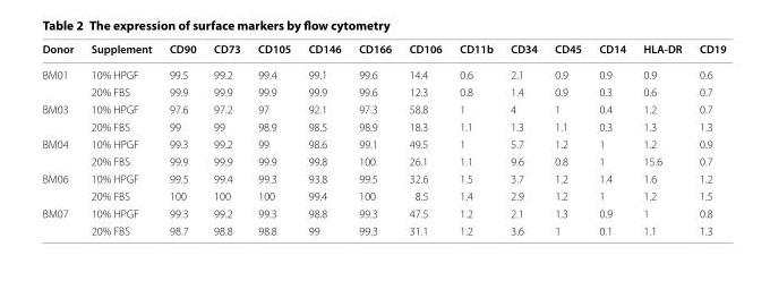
<table><thead><tr><td>Donor</td><td>Supplement</td><td>CD90</td><td>CD73</td><td>CD105</td><td>CD146</td><td>CD166</td><td>CD106</td><td>CD11b</td><td>CD34</td><td>CD45</td><td>CD14</td><td>HLA‑DR</td><td>CD19</td></tr></thead><tbody><tr><td rowspan="2">BM01</td><td>10% HPGF</td><td>99.5</td><td>99.2</td><td>99.4</td><td>99.1</td><td>99.6</td><td>14.4</td><td>0.6</td><td>2.1</td><td>0.9</td><td>0.9</td><td>0.9</td><td>0.6</td></tr><tr><td>20% FBS</td><td>99.9</td><td>99.9</td><td>99.9</td><td>99.9</td><td>99.6</td><td>12.3</td><td>0.8</td><td>1.4</td><td>0.9</td><td>0.3</td><td>0.6</td><td>0.7</td></tr><tr><td rowspan="2">BM03</td><td>10% HPGF</td><td>97.6</td><td>97.2</td><td>97</td><td>92.1</td><td>97.3</td><td>58.8</td><td>1</td><td>4</td><td>1</td><td>0.4</td><td>1.2</td><td>0.7</td></tr><tr><td>20% FBS</td><td>99</td><td>99</td><td>98.9</td><td>98.5</td><td>98.9</td><td>18.3</td><td>1.1</td><td>1.3</td><td>1.1</td><td>0.3</td><td>1.3</td><td>1.3</td></tr><tr><td rowspan="2">BM04</td><td>10% HPGF</td><td>99.3</td><td>99.2</td><td>99</td><td>98.6</td><td>99.1</td><td>49.5</td><td>1</td><td>5.7</td><td>1.2</td><td>1</td><td>1.2</td><td>0.9</td></tr><tr><td>20% FBS</td><td>99.9</td><td>99.9</td><td>99.9</td><td>99.8</td><td>100</td><td>26.1</td><td>1.1</td><td>9.6</td><td>0.8</td><td>1</td><td>15.6</td><td>0.7</td></tr><tr><td rowspan="2">BM06</td><td>10% HPGF</td><td>99.5</td><td>99.4</td><td>99.3</td><td>93.8</td><td>99.5</td><td>32.6</td><td>1.5</td><td>3.7</td><td>1.2</td><td>1.4</td><td>1.6</td><td>1.2</td></tr><tr><td>20% FBS</td><td>100</td><td>100</td><td>100</td><td>99.4</td><td>100</td><td>8.5</td><td>1.4</td><td>2.9</td><td>1.2</td><td>1</td><td>1.2</td><td>1.5</td></tr><tr><td rowspan="2">BM07</td><td>10% HPGF</td><td>99.3</td><td>99.2</td><td>99.3</td><td>98.8</td><td>99.3</td><td>47.5</td><td>1.2</td><td>2.1</td><td>1.3</td><td>0.9</td><td>1</td><td>0.8</td></tr><tr><td>20% FBS</td><td>98.7</td><td>98.8</td><td>98.8</td><td>99</td><td>99.3</td><td>31.1</td><td>1.2</td><td>3.6</td><td>1</td><td>0.1</td><td>1.1</td><td>1.3</td></tr></tbody></table>